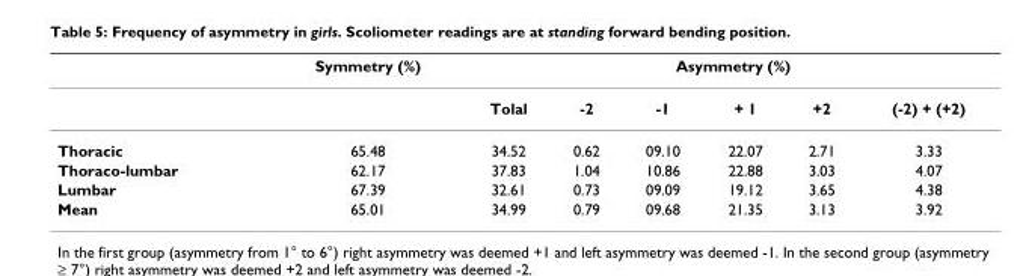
<table><thead><tr><td rowspan="2"></td><td rowspan="2">Symmetry (%)</td><td colspan="6">Asymmetry (%)</td></tr><tr><td>Tolal</td><td>-2</td><td>-1</td><td>+ 1</td><td>+2</td><td>(-2) + (+2)</td></tr></thead><tbody><tr><td>Thoracic</td><td>65.48</td><td>34.52</td><td>0.62</td><td>09.10</td><td>22.07</td><td>2.71</td><td>3.33</td></tr><tr><td>Thoraco-lumbar</td><td>62.17</td><td>37.83</td><td>1.04</td><td>10.86</td><td>22.88</td><td>3.03</td><td>4.07</td></tr><tr><td>Lumbar</td><td>67.39</td><td>32.61</td><td>0.73</td><td>09.09</td><td>19.12</td><td>3.65</td><td>4.38</td></tr><tr><td>Mean</td><td>65.01</td><td>34.99</td><td>0.79</td><td>09.68</td><td>21.35</td><td>3.13</td><td>3.92</td></tr></tbody></table>